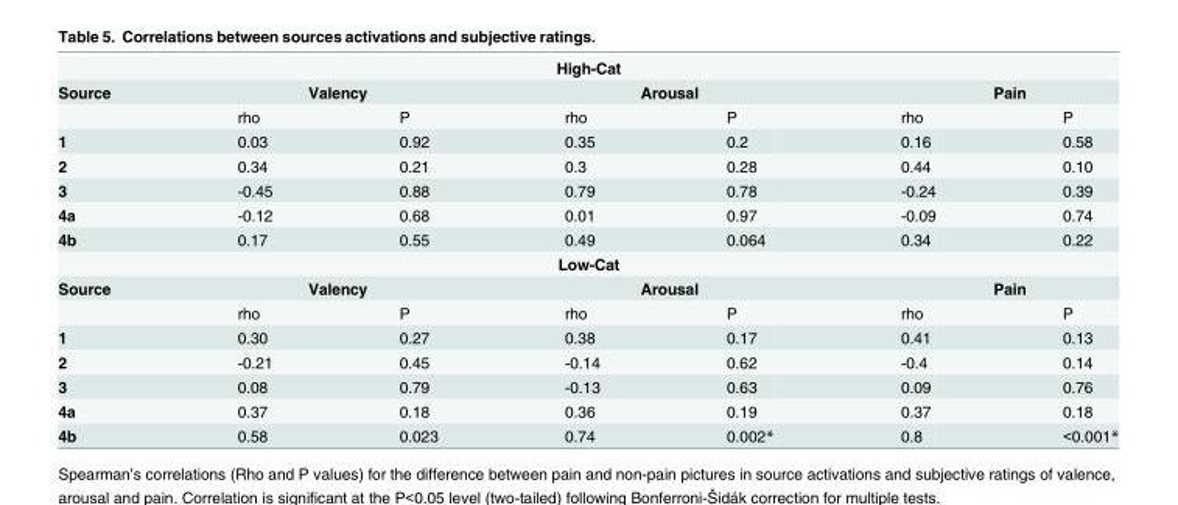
<table><tbody><tr><td colspan="7">High-Cat</td></tr><tr><td rowspan="2">Source</td><td colspan="2">Valency</td><td colspan="2">Arousal</td><td colspan="2">Pain</td></tr><tr><td>rho</td><td>P</td><td>rho</td><td>P</td><td>rho</td><td>P</td></tr><tr><td>1</td><td>0.03</td><td>0.92</td><td>0.35</td><td>0.2</td><td>0.16</td><td>0.58</td></tr><tr><td>2</td><td>0.34</td><td>0.21</td><td>0.3</td><td>0.28</td><td>0.44</td><td>0.10</td></tr><tr><td>3</td><td>-0.45</td><td>0.88</td><td>0.79</td><td>0.78</td><td>-0.24</td><td>0.39</td></tr><tr><td>4a</td><td>-0.12</td><td>0.68</td><td>0.01</td><td>0.97</td><td>-0.09</td><td>0.74</td></tr><tr><td>4b</td><td>0.17</td><td>0.55</td><td>0.49</td><td>0.064</td><td>0.34</td><td>0.22</td></tr><tr><td colspan="7">Low-Cat</td></tr><tr><td rowspan="2">Source</td><td colspan="2">Valency</td><td colspan="2">Arousal</td><td colspan="2">Pain</td></tr><tr><td>rho</td><td>P</td><td>rho</td><td>P</td><td>rho</td><td>P</td></tr><tr><td>1</td><td>0.30</td><td>0.27</td><td>0.38</td><td>0.17</td><td>0.41</td><td>0.13</td></tr><tr><td>2</td><td>-0.21</td><td>0.45</td><td>-0.14</td><td>0.62</td><td>-0.4</td><td>0.14</td></tr><tr><td>3</td><td>0.08</td><td>0.79</td><td>-0.13</td><td>0.63</td><td>0.09</td><td>0.76</td></tr><tr><td>4a</td><td>0.37</td><td>0.18</td><td>0.36</td><td>0.19</td><td>0.37</td><td>0.18</td></tr><tr><td>4b</td><td>0.58</td><td>0.023</td><td>0.74</td><td>0.002*</td><td>0.8</td><td>&lt;0.001*</td></tr></tbody></table>